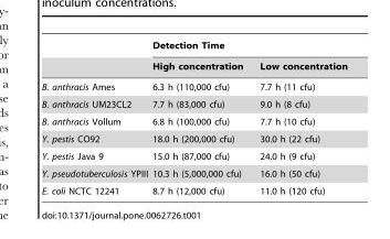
<table><thead><tr><td rowspan="2"></td><td colspan="2">Detection Time</td></tr><tr><td>High concentration</td><td>Low concentration</td></tr></thead><tbody><tr><td>B. anthracis Ames</td><td>6.3 h (110,000 cfu)</td><td>7.7 h (11 cfu)</td></tr><tr><td>B. anthracis UM23CL2</td><td>7.7 h (83,000 cfu)</td><td>9.0 h (8 cfu)</td></tr><tr><td>B. anthracis Vollum</td><td>6.8 h (100,000 cfu)</td><td>7.7 h (10 cfu)</td></tr><tr><td>Y. pestis CO92</td><td>18.0 h (200,000 cfu)</td><td>30.0 h (22 cfu)</td></tr><tr><td>Y. pestis Java 9</td><td>15.0 h (87,000 cfu)</td><td>24.0 h (9 cfu)</td></tr><tr><td>Y. pseudotuberculosis YPIII</td><td>10.3 h (5,000,000 cfu)</td><td>16.0 h (50 cfu)</td></tr><tr><td>E. coli NCTC 12241</td><td>8.7 h (12,000 cfu)</td><td>11.0 h (120 cfu)</td></tr></tbody></table>